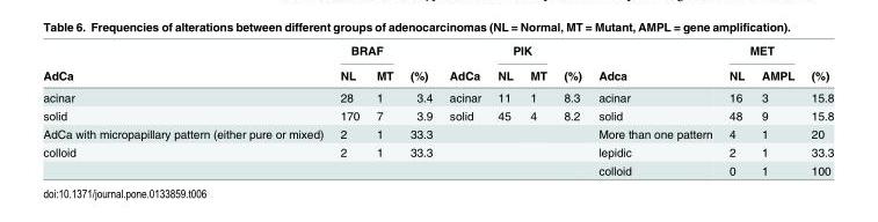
<table><thead><tr><td rowspan="2">AdCa</td><td colspan="2">BRAF</td><td rowspan="2">(%)</td><td rowspan="2">AdCa</td><td colspan="2">PIK</td><td rowspan="2">(%)</td><td rowspan="2">Adca</td><td colspan="2">MET</td><td rowspan="2">(%)</td></tr><tr><td>NL</td><td>MT</td><td>NL</td><td>MT</td><td>NL</td><td>AMPL</td></tr></thead><tbody><tr><td>acinar</td><td>28</td><td>1</td><td>3.4</td><td>acinar</td><td>11</td><td>1</td><td>8.3</td><td>acinar</td><td>16</td><td>3</td><td>15.8</td></tr><tr><td>solid</td><td>170</td><td>7</td><td>3.9</td><td>solid</td><td>45</td><td>4</td><td>8.2</td><td>solid</td><td>48</td><td>9</td><td>15.8</td></tr><tr><td>AdCa with micropapillary pattern (either pure or mixed)</td><td>2</td><td>1</td><td>33.3</td><td></td><td></td><td></td><td></td><td>More than one pattern</td><td>4</td><td>1</td><td>20</td></tr><tr><td rowspan="2">colloid</td><td>2</td><td>1</td><td>33.3</td><td></td><td></td><td></td><td></td><td>lepidic</td><td>2</td><td>1</td><td>33.3</td></tr><tr><td></td><td></td><td></td><td></td><td></td><td></td><td></td><td>colloid</td><td>0</td><td>1</td><td>100</td></tr></tbody></table>